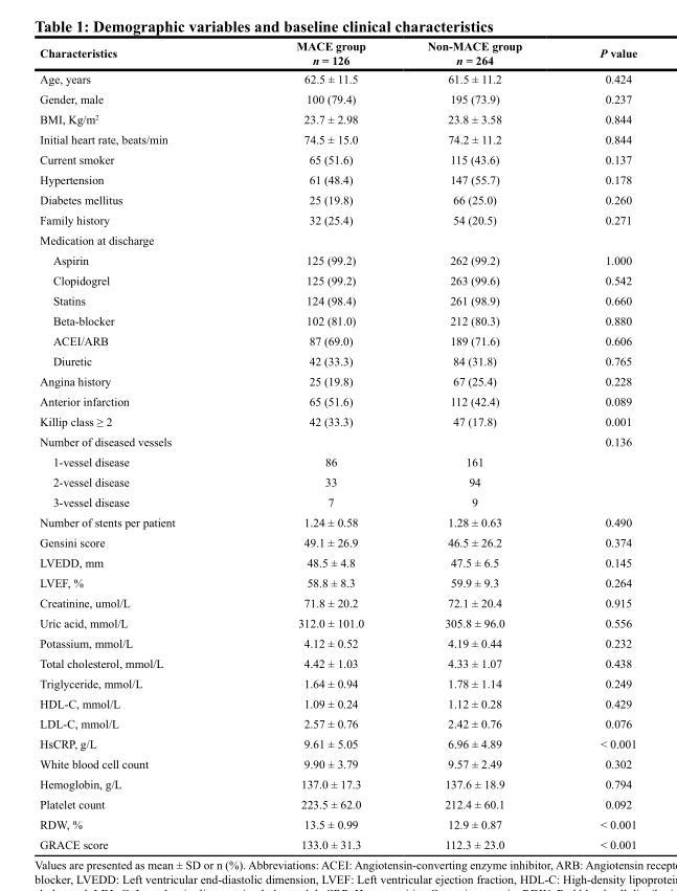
<table><thead><tr><td>Characteristics</td><td>MACE group n = 126</td><td>Non-MACE group n = 264</td><td>P value</td></tr></thead><tbody><tr><td>Age, years</td><td>62.5 ± 11.5</td><td>61.5 ± 11.2</td><td>0.424</td></tr><tr><td>Gender, male</td><td>100 (79.4)</td><td>195 (73.9)</td><td>0.237</td></tr><tr><td>BMI, Kg/m<sup>2</sup></td><td>23.7 ± 2.98</td><td>23.8 ± 3.58</td><td>0.844</td></tr><tr><td>Initial heart rate, beats/min</td><td>74.5 ± 15.0</td><td>74.2 ± 11.2</td><td>0.844</td></tr><tr><td>Current smoker</td><td>65 (51.6)</td><td>115 (43.6)</td><td>0.137</td></tr><tr><td>Hypertension</td><td>61 (48.4)</td><td>147 (55.7)</td><td>0.178</td></tr><tr><td>Diabetes mellitus</td><td>25 (19.8)</td><td>66 (25.0)</td><td>0.260</td></tr><tr><td>Family history</td><td>32 (25.4)</td><td>54 (20.5)</td><td>0.271</td></tr><tr><td colspan="4">Medication at discharge</td></tr><tr><td>Aspirin</td><td>125 (99.2)</td><td>262 (99.2)</td><td>1.000</td></tr><tr><td>Clopidogrel</td><td>125 (99.2)</td><td>263 (99.6)</td><td>0.542</td></tr><tr><td>Statins</td><td>124 (98.4)</td><td>261 (98.9)</td><td>0.660</td></tr><tr><td>Beta-blocker</td><td>102 (81.0)</td><td>212 (80.3)</td><td>0.880</td></tr><tr><td>ACEI/ARB</td><td>87 (69.0)</td><td>189 (71.6)</td><td>0.606</td></tr><tr><td>Diuretic</td><td>42 (33.3)</td><td>84 (31.8)</td><td>0.765</td></tr><tr><td>Angina history</td><td>25 (19.8)</td><td>67 (25.4)</td><td>0.228</td></tr><tr><td>Anterior infarction</td><td>65 (51.6)</td><td>112 (42.4)</td><td>0.089</td></tr><tr><td>Killip class ≥ 2</td><td>42 (33.3)</td><td>47 (17.8)</td><td>0.001</td></tr><tr><td>Number of diseased vessels</td><td></td><td></td><td>0.136</td></tr><tr><td>1-vessel disease</td><td>86</td><td>161</td><td></td></tr><tr><td>2-vessel disease</td><td>33</td><td>94</td><td></td></tr><tr><td>3-vessel disease</td><td>7</td><td>9</td><td></td></tr><tr><td>Number of stents per patient</td><td>1.24 ± 0.58</td><td>1.28 ± 0.63</td><td>0.490</td></tr><tr><td>Gensini score</td><td>49.1 ± 26.9</td><td>46.5 ± 26.2</td><td>0.374</td></tr><tr><td>LVEDD, mm</td><td>48.5 ± 4.8</td><td>47.5 ± 6.5</td><td>0.145</td></tr><tr><td>LVEF, %</td><td>58.8 ± 8.3</td><td>59.9 ± 9.3</td><td>0.264</td></tr><tr><td>Creatinine, umol/L</td><td>71.8 ± 20.2</td><td>72.1 ± 20.4</td><td>0.915</td></tr><tr><td>Uric acid, mmol/L</td><td>312.0 ± 101.0</td><td>305.8 ± 96.0</td><td>0.556</td></tr><tr><td>Potassium, mmol/L</td><td>4.12 ± 0.52</td><td>4.19 ± 0.44</td><td>0.232</td></tr><tr><td>Total cholesterol, mmol/L</td><td>4.42 ± 1.03</td><td>4.33 ± 1.07</td><td>0.438</td></tr><tr><td>Triglyceride, mmol/L</td><td>1.64 ± 0.94</td><td>1.78 ± 1.14</td><td>0.249</td></tr><tr><td>HDL-C, mmol/L</td><td>1.09 ± 0.24</td><td>1.12 ± 0.28</td><td>0.429</td></tr><tr><td>LDL-C, mmol/L</td><td>2.57 ± 0.76</td><td>2.42 ± 0.76</td><td>0.076</td></tr><tr><td>HsCRP, g/L</td><td>9.61 ± 5.05</td><td>6.96 ± 4.89</td><td>&lt; 0.001</td></tr><tr><td>White blood cell count</td><td>9.90 ± 3.79</td><td>9.57 ± 2.49</td><td>0.302</td></tr><tr><td>Hemoglobin, g/L</td><td>137.0 ± 17.3</td><td>137.6 ± 18.9</td><td>0.794</td></tr><tr><td>Platelet count</td><td>223.5 ± 62.0</td><td>212.4 ± 60.1</td><td>0.092</td></tr><tr><td>RDW, %</td><td>13.5 ± 0.99</td><td>12.9 ± 0.87</td><td>&lt; 0.001</td></tr><tr><td>GRACE score</td><td>133.0 ± 31.3</td><td>112.3 ± 23.0</td><td>&lt; 0.001</td></tr></tbody></table>